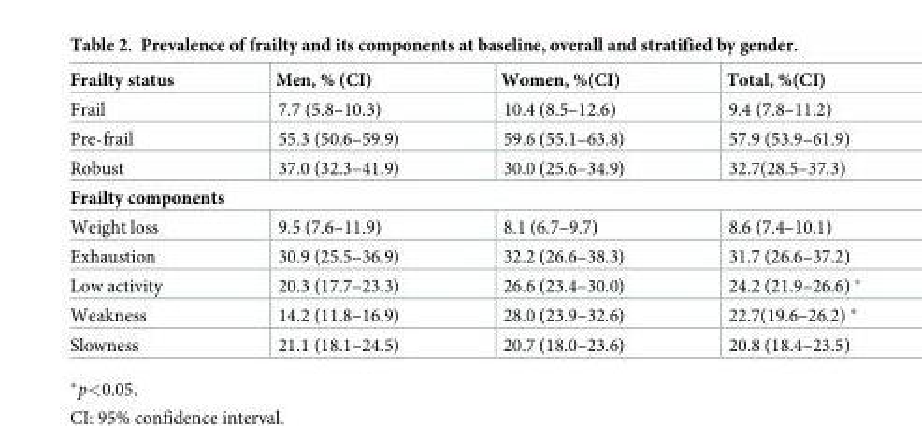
<table><thead><tr><td>Frailty status</td><td>Men, % (CI)</td><td>Women, %(CI)</td><td>Total, %(CI)</td></tr></thead><tbody><tr><td>Frail</td><td>7.7 (5.8–10.3)</td><td>10.4 (8.5–12.6)</td><td>9.4 (7.8–11.2)</td></tr><tr><td>Pre-frail</td><td>55.3 (50.6–59.9)</td><td>59.6 (55.1–63.8)</td><td>57.9 (53.9–61.9)</td></tr><tr><td>Robust</td><td>37.0 (32.3–41.9)</td><td>30.0 (25.6–34.9)</td><td>32.7(28.5–37.3)</td></tr><tr><td colspan="4">Frailty components</td></tr><tr><td>Weight loss</td><td>9.5 (7.6–11.9)</td><td>8.1 (6.7–9.7)</td><td>8.6 (7.4–10.1)</td></tr><tr><td>Exhaustion</td><td>30.9 (25.5–36.9)</td><td>32.2 (26.6–38.3)</td><td>31.7 (26.6–37.2)</td></tr><tr><td>Low activity</td><td>20.3 (17.7–23.3)</td><td>26.6 (23.4–30.0)</td><td>24.2 (21.9–26.6)</td></tr><tr><td>Weakness</td><td>14.2 (11.8–16.9)</td><td>28.0 (23.9–32.6)</td><td>22.7(19.6–26.2)</td></tr><tr><td>Slowness</td><td>21.1 (18.1–24.5)</td><td>20.7 (18.0–23.6)</td><td>20.8 (18.4–23.5)</td></tr></tbody></table>